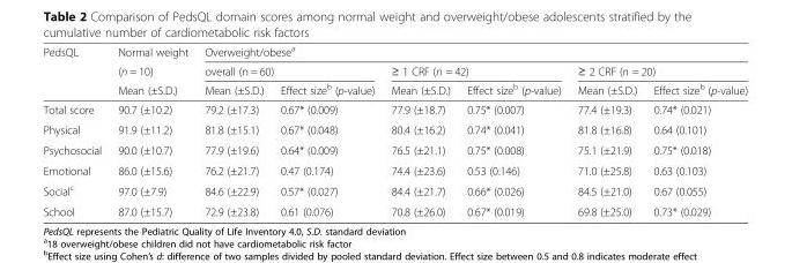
<table><thead><tr><td rowspan="3">PedsQL</td><td rowspan="3">Normal weight (n = 10) Mean (±S.D.)</td><td colspan="6">Overweight/obese<sup>a</sup></td></tr><tr><td colspan="2">overall (n = 60)</td><td colspan="2">≥ 1 CRF (n = 42)</td><td colspan="2">≥ 2 CRF (n = 20)</td></tr><tr><td>Mean (±S.D.)</td><td>Effect size<sup>b</sup> (p-value)</td><td>Mean (±S.D.)</td><td>Effect size<sup>b</sup> (p-value)</td><td>Mean (±S.D.)</td><td>Effect size<sup>b</sup> (p-value)</td></tr></thead><tbody><tr><td>Total score</td><td>90.7 (±10.2)</td><td>79.2 (±17.3)</td><td>0.67* (0.009)</td><td>77.9 (±18.7)</td><td>0.75* (0.007)</td><td>77.4 (±19.3)</td><td>0.74* (0.021)</td></tr><tr><td>Physical</td><td>91.9 (±11.2)</td><td>81.8 (±15.1)</td><td>0.67* (0.048)</td><td>80.4 (±16.2)</td><td>0.74* (0.041)</td><td>81.8 (±16.8)</td><td>0.64 (0.101)</td></tr><tr><td>Psychosocial</td><td>90.0 (±10.7)</td><td>77.9 (±19.6)</td><td>0.64* (0.009)</td><td>76.5 (±21.1)</td><td>0.75* (0.008)</td><td>75.1 (±21.9)</td><td>0.75* (0.018)</td></tr><tr><td>Emotional</td><td>86.0 (±15.6)</td><td>76.2 (±21.7)</td><td>0.47 (0.174)</td><td>74.4 (±23.6)</td><td>0.53 (0.146)</td><td>71.0 (±25.8)</td><td>0.63 (0.103)</td></tr><tr><td>Social<sup>c</sup></td><td>97.0 (±7.9)</td><td>84.6 (±22.9)</td><td>0.57* (0.027)</td><td>84.4 (±21.7)</td><td>0.66* (0.026)</td><td>84.5 (±21.0)</td><td>0.67 (0.055)</td></tr><tr><td>School</td><td>87.0 (±15.7)</td><td>72.9 (±23.8)</td><td>0.61 (0.076)</td><td>70.8 (±26.0)</td><td>0.67* (0.019)</td><td>69.8 (±25.0)</td><td>0.73* (0.029)</td></tr></tbody></table>